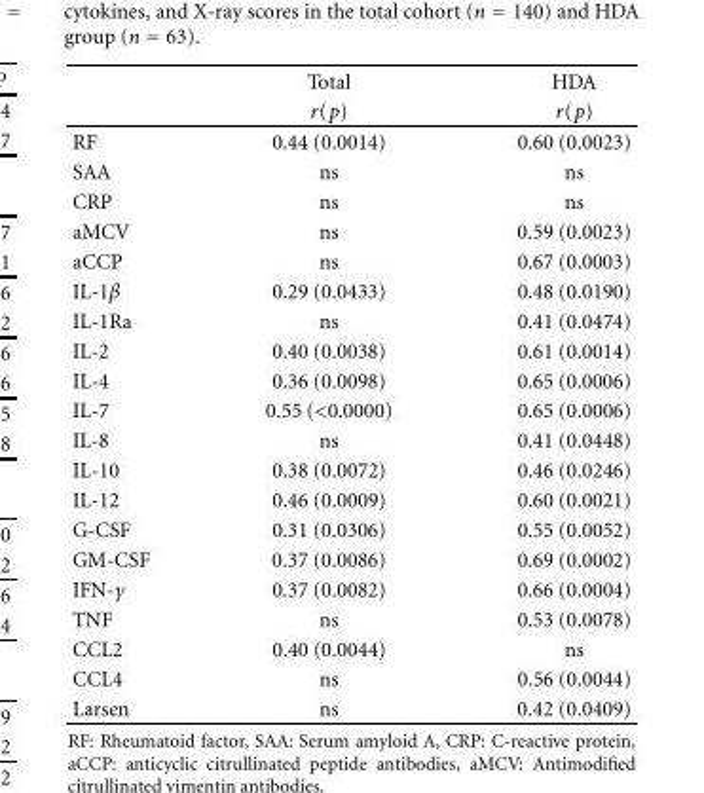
<table><thead><tr><td rowspan="2"></td><td rowspan="2">Total r(p)</td><td rowspan="2">HDA r(p)</td></tr><tr></tr></thead><tbody><tr><td>RF</td><td>0.44 (0.0014)</td><td>0.60 (0.0023)</td></tr><tr><td>SAA</td><td>ns</td><td>ns</td></tr><tr><td>CRP</td><td>ns</td><td>ns</td></tr><tr><td>aMCV</td><td>ns</td><td>0.59 (0.0023)</td></tr><tr><td>aCCP</td><td>ns</td><td>0.67 (0.0003)</td></tr><tr><td>IL-1β</td><td>0.29 (0.0433)</td><td>0.48 (0.0190)</td></tr><tr><td>IL-1Ra</td><td>ns</td><td>0.41 (0.0474)</td></tr><tr><td>IL-2</td><td>0.40 (0.0038)</td><td>0.61 (0.0014)</td></tr><tr><td>IL-4</td><td>0.36 (0.0098)</td><td>0.65 (0.0006)</td></tr><tr><td>IL-7</td><td>0.55 (&lt;0.0000)</td><td>0.65 (0.0006)</td></tr><tr><td>IL-8</td><td>ns</td><td>0.41 (0.0448)</td></tr><tr><td>IL-10</td><td>0.38 (0.0072)</td><td>0.46 (0.0246)</td></tr><tr><td>IL-12</td><td>0.46 (0.0009)</td><td>0.60 (0.0021)</td></tr><tr><td>G-CSF</td><td>0.31 (0.0306)</td><td>0.55 (0.0052)</td></tr><tr><td>GM-CSF</td><td>0.37 (0.0086)</td><td>0.69 (0.0002)</td></tr><tr><td>IFN-γ</td><td>0.37 (0.0082)</td><td>0.66 (0.0004)</td></tr><tr><td>TNF</td><td>ns</td><td>0.53 (0.0078)</td></tr><tr><td>CCL2</td><td>0.40 (0.0044)</td><td>ns</td></tr><tr><td>CCL4</td><td>ns</td><td>0.56 (0.0044)</td></tr><tr><td>Larsen</td><td>ns</td><td>0.42 (0.0409)</td></tr></tbody></table>